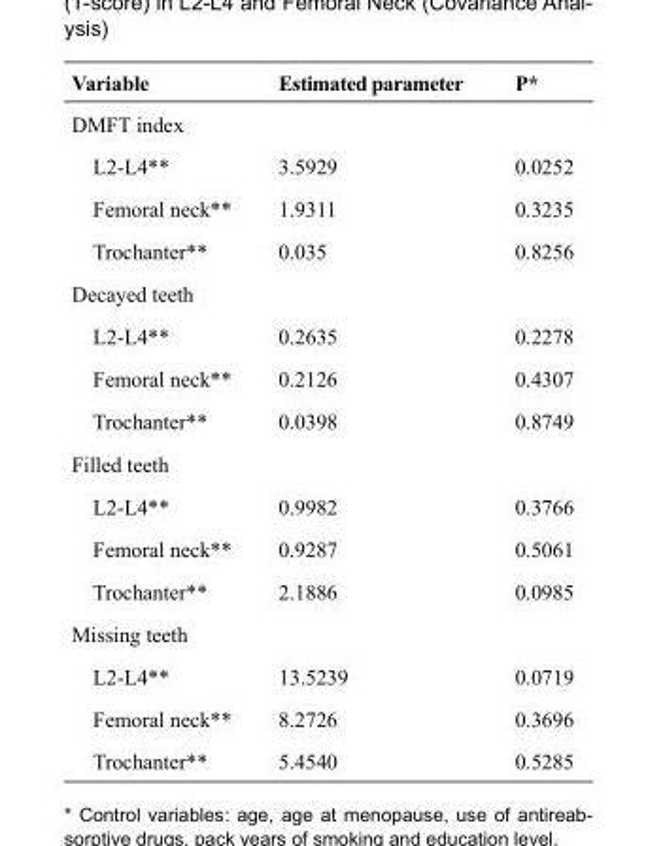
<table><thead><tr><td>Variable</td><td>Estimated parameter</td><td>P*</td></tr></thead><tbody><tr><td colspan="3">DMFT index</td></tr><tr><td>L2-L4**</td><td>3.5929</td><td>0.0252</td></tr><tr><td>Femoral neck**</td><td>1.9311</td><td>0.3235</td></tr><tr><td>Trochanter**</td><td>0.035</td><td>0.8256</td></tr><tr><td colspan="3">Decayed teeth</td></tr><tr><td>L2-L4**</td><td>0.2635</td><td>0.2278</td></tr><tr><td>Femoral neck**</td><td>0.2126</td><td>0.4307</td></tr><tr><td>Trochanter**</td><td>0.0398</td><td>0.8749</td></tr><tr><td colspan="3">Filled teeth</td></tr><tr><td>L2-L4**</td><td>0.9982</td><td>0.3766</td></tr><tr><td>Femoral neck**</td><td>0.9287</td><td>0.5061</td></tr><tr><td>Trochanter**</td><td>2.1886</td><td>0.0985</td></tr><tr><td colspan="3">Missing teeth</td></tr><tr><td>L2-L4**</td><td>13.5239</td><td>0.0719</td></tr><tr><td>Femoral neck**</td><td>8.2726</td><td>0.3696</td></tr><tr><td>Trochanter**</td><td>5.4540</td><td>0.5285</td></tr></tbody></table>